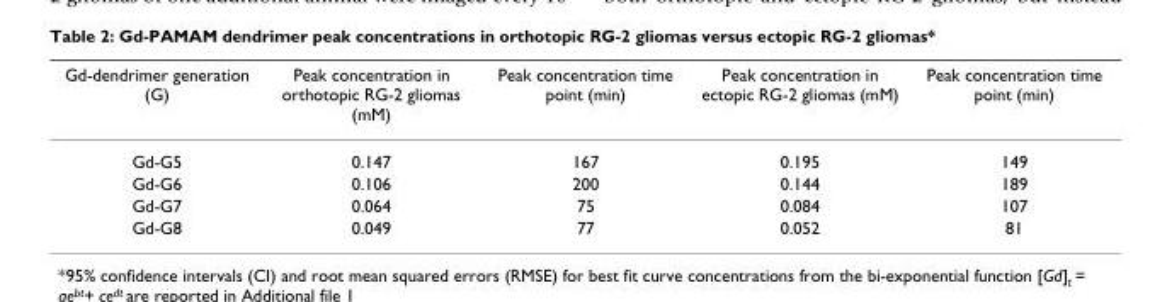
<table><thead><tr><td>Gd-dendrimer generation (G)</td><td>Peak concentration in orthotopic RG-2 gliomas (mM)</td><td>Peak concentration time point (min)</td><td>Peak concentration in ectopic RG-2 gliomas (mM)</td><td>Peak concentration time point (min)</td></tr></thead><tbody><tr><td>Gd-G5</td><td>0.147</td><td>167</td><td>0.195</td><td>149</td></tr><tr><td>Gd-G6</td><td>0.106</td><td>200</td><td>0.144</td><td>189</td></tr><tr><td>Gd-G7</td><td>0.064</td><td>75</td><td>0.084</td><td>107</td></tr><tr><td>Gd-G8</td><td>0.049</td><td>77</td><td>0.052</td><td>81</td></tr></tbody></table>